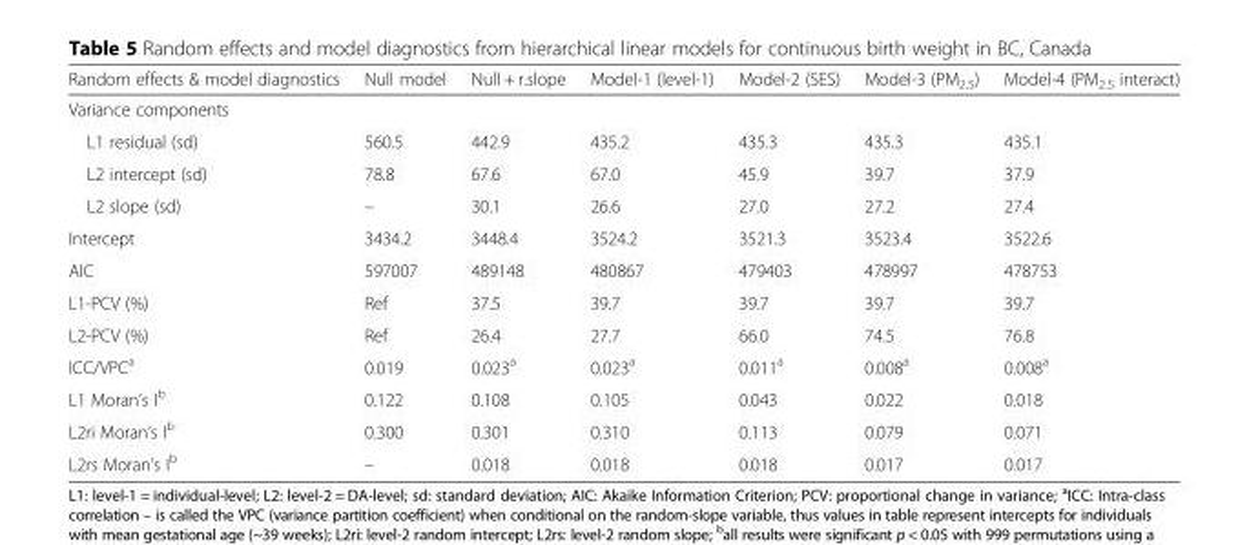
<table><thead><tr><td>Random effects &amp; model diagnostics</td><td>Null model</td><td>Null + r.slope</td><td>Model-1 (level-1)</td><td>Model-2 (SES)</td><td>Model-3 (PM<sub>2.5</sub>)</td><td>Model-4 (PM<sub>2.5</sub> interact)</td></tr></thead><tbody><tr><td colspan="7">Variance components</td></tr><tr><td>L1 residual (sd)</td><td>560.5</td><td>442.9</td><td>435.2</td><td>435.3</td><td>435.3</td><td>435.1</td></tr><tr><td>L2 intercept (sd)</td><td>78.8</td><td>67.6</td><td>67.0</td><td>45.9</td><td>39.7</td><td>37.9</td></tr><tr><td>L2 slope (sd)</td><td>–</td><td>30.1</td><td>26.6</td><td>27.0</td><td>27.2</td><td>27.4</td></tr><tr><td>Intercept</td><td>3434.2</td><td>3448.4</td><td>3524.2</td><td>3521.3</td><td>3523.4</td><td>3522.6</td></tr><tr><td>AIC</td><td>597007</td><td>489148</td><td>480867</td><td>479403</td><td>478997</td><td>478753</td></tr><tr><td>L1-PCV (%)</td><td>Ref</td><td>37.5</td><td>39.7</td><td>39.7</td><td>39.7</td><td>39.7</td></tr><tr><td>L2-PCV (%)</td><td>Ref</td><td>26.4</td><td>27.7</td><td>66.0</td><td>74.5</td><td>76.8</td></tr><tr><td>ICC/VPC<sup>a</sup></td><td>0.019</td><td>0.023<sup>a</sup></td><td>0.023<sup>a</sup></td><td>0.011<sup>a</sup></td><td>0.008<sup>a</sup></td><td>0.008<sup>a</sup></td></tr><tr><td>L1 Moran’s I<sup>b</sup></td><td>0.122</td><td>0.108</td><td>0.105</td><td>0.043</td><td>0.022</td><td>0.018</td></tr><tr><td>L2ri Moran’s I<sup>b</sup></td><td>0.300</td><td>0.301</td><td>0.310</td><td>0.113</td><td>0.079</td><td>0.071</td></tr><tr><td>L2rs Moran’s I<sup>b</sup></td><td>–</td><td>0.018</td><td>0.018</td><td>0.018</td><td>0.017</td><td>0.017</td></tr></tbody></table>